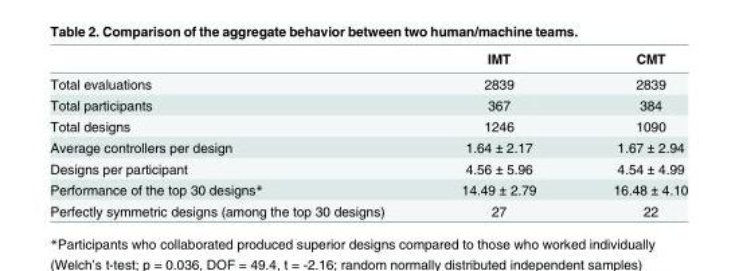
<table><thead><tr><td></td><td>IMT</td><td>CMT</td></tr></thead><tbody><tr><td>Total evaluations</td><td>2839</td><td>2839</td></tr><tr><td>Total participants</td><td>367</td><td>384</td></tr><tr><td>Total designs</td><td>1246</td><td>1090</td></tr><tr><td>Average controllers per design</td><td>1.64 ± 2.17</td><td>1.67 ± 2.94</td></tr><tr><td>Designs per participant</td><td>4.56 ± 5.96</td><td>4.54 ± 4.99</td></tr><tr><td>Performance of the top 30 designs*</td><td>14.49 ± 2.79</td><td>16.48 ± 4.10</td></tr><tr><td>Perfectly symmetric designs (among the top 30 designs)</td><td>27</td><td>22</td></tr></tbody></table>